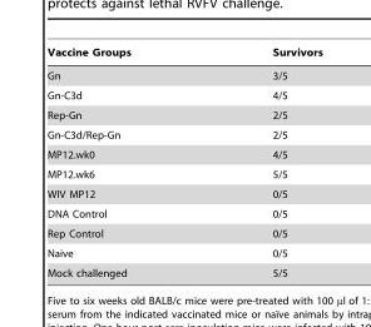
<table><thead><tr><td>Vaccine Groups</td><td>Survivors</td></tr></thead><tbody><tr><td>Gn</td><td>3/5</td></tr><tr><td>Gn-C3d</td><td>4/5</td></tr><tr><td>Rep-Gn</td><td>2/5</td></tr><tr><td>Gn-C3d/Rep-Gn</td><td>2/5</td></tr><tr><td>MP12.wk0</td><td>4/5</td></tr><tr><td>MP12.wk6</td><td>5/5</td></tr><tr><td>WIV MP12</td><td>0/5</td></tr><tr><td>DNA Control</td><td>0/5</td></tr><tr><td>Rep Control</td><td>0/5</td></tr><tr><td>Naive</td><td>0/5</td></tr><tr><td>Mock challenged</td><td>5/5</td></tr></tbody></table>